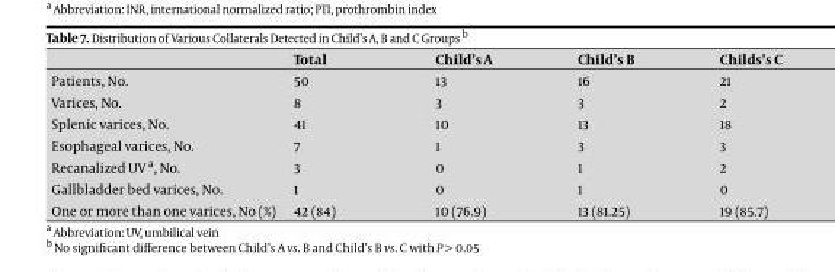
<table><thead><tr><td></td><td>Total</td><td>Child’s A</td><td>Child’s B</td><td>Childs’s C</td></tr></thead><tbody><tr><td>Patients, No.</td><td>50</td><td>13</td><td>16</td><td>21</td></tr><tr><td>Varices, No.</td><td>8</td><td>3</td><td>3</td><td>2</td></tr><tr><td>Splenic varices, No.</td><td>41</td><td>10</td><td>13</td><td>18</td></tr><tr><td>Esophageal varices, No.</td><td>7</td><td>1</td><td>3</td><td>3</td></tr><tr><td>Recanalized UV a, No.</td><td>3</td><td>0</td><td>1</td><td>2</td></tr><tr><td>Gallbladder bed varices, No.</td><td>1</td><td>0</td><td>1</td><td>0</td></tr><tr><td>One or more than one varices, No (%)</td><td>42 (84)</td><td>10 (76.9)</td><td>13 (81.25)</td><td>19 (85.7)</td></tr></tbody></table>